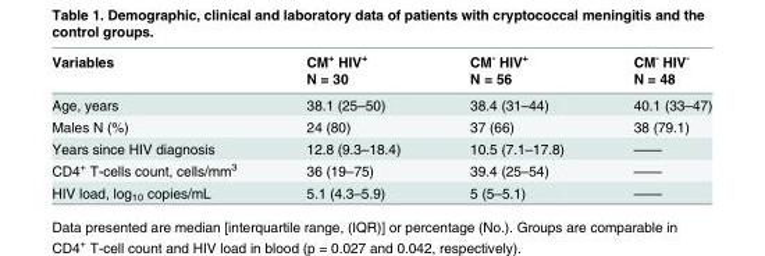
<table><thead><tr><td rowspan="2">Variables</td><td rowspan="2">CM<sup>+</sup> HIV<sup>+</sup> N = 30</td><td rowspan="2">CM<sup>-</sup> HIV<sup>+</sup> N = 56</td><td rowspan="2">CM<sup>-</sup> HIV<sup>-</sup> N = 48</td></tr><tr></tr></thead><tbody><tr><td>Age, years</td><td>38.1 (25–50)</td><td>38.4 (31–44)</td><td>40.1 (33–47)</td></tr><tr><td>Males N (%)</td><td>24 (80)</td><td>37 (66)</td><td>38 (79.1)</td></tr><tr><td>Years since HIV diagnosis</td><td>12.8 (9.3–18.4)</td><td>10.5 (7.1–17.8)</td><td>——</td></tr><tr><td>CD4<sup>+</sup> T-cells count, cells/mm<sup>3</sup></td><td>36 (19–75)</td><td>39.4 (25–54)</td><td>——</td></tr><tr><td>HIV load, log<sub>10</sub> copies/mL</td><td>5.1 (4.3–5.9)</td><td>5 (5–5.1)</td><td>——</td></tr></tbody></table>